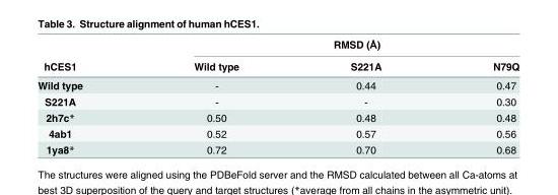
<table><thead><tr><td rowspan="2">hCES1</td><td colspan="3">RMSD (Å)</td></tr><tr><td>Wild type</td><td>S221A</td><td>N79Q</td></tr></thead><tbody><tr><td>Wild type</td><td>-</td><td>0.44</td><td>0.47</td></tr><tr><td>S221A</td><td>-</td><td>-</td><td>0.30</td></tr><tr><td>2h7c*</td><td>0.50</td><td>0.48</td><td>0.48</td></tr><tr><td>4ab1</td><td>0.52</td><td>0.57</td><td>0.56</td></tr><tr><td>1ya8*</td><td>0.72</td><td>0.70</td><td>0.68</td></tr></tbody></table>